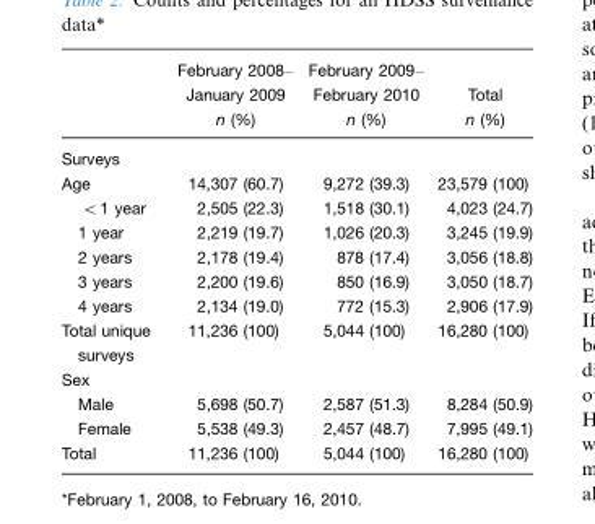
<table><thead><tr><td></td><td>February 2008– January 2009 n (%)</td><td>February 2009– February 2010 n (%)</td><td>Total n (%)</td></tr></thead><tbody><tr><td colspan="4">Surveys</td></tr><tr><td>Age</td><td>14,307 (60.7)</td><td>9,272 (39.3)</td><td>23,579 (100)</td></tr><tr><td>&lt;1 year</td><td>2,505 (22.3)</td><td>1,518 (30.1)</td><td>4,023 (24.7)</td></tr><tr><td>1 year</td><td>2,219 (19.7)</td><td>1,026 (20.3)</td><td>3,245 (19.9)</td></tr><tr><td>2 years</td><td>2,178 (19.4)</td><td>878 (17.4)</td><td>3,056 (18.8)</td></tr><tr><td>3 years</td><td>2,200 (19.6)</td><td>850 (16.9)</td><td>3,050 (18.7)</td></tr><tr><td>4 years</td><td>2,134 (19.0)</td><td>772 (15.3)</td><td>2,906 (17.9)</td></tr><tr><td>Total unique surveys</td><td>11,236 (100)</td><td>5,044 (100)</td><td>16,280 (100)</td></tr><tr><td colspan="4">Sex</td></tr><tr><td>Male</td><td>5,698 (50.7)</td><td>2,587 (51.3)</td><td>8,284 (50.9)</td></tr><tr><td>Female</td><td>5,538 (49.3)</td><td>2,457 (48.7)</td><td>7,995 (49.1)</td></tr><tr><td>Total</td><td>11,236 (100)</td><td>5,044 (100)</td><td>16,280 (100)</td></tr></tbody></table>